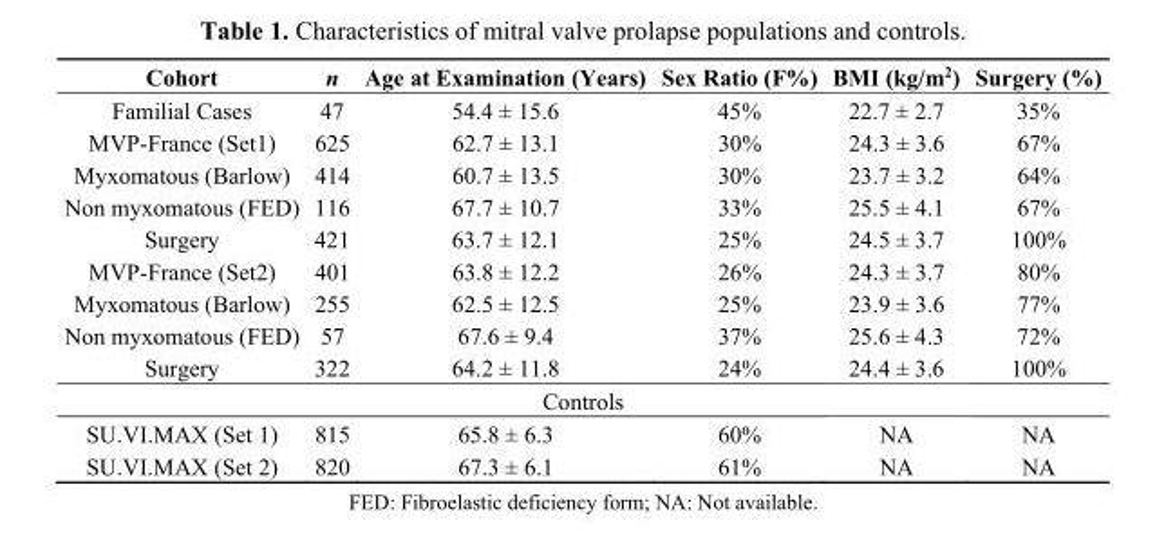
<table><thead><tr><td>Cohort</td><td>n</td><td>Age at Examination (Years)</td><td>Sex Ratio (F%)</td><td>BMI (kg/m<sup>2</sup>)</td><td>Surgery (%)</td></tr></thead><tbody><tr><td>Familial Cases</td><td>47</td><td>54.4 ± 15.6</td><td>45%</td><td>22.7 ± 2.7</td><td>35%</td></tr><tr><td>MVP-France (Set1)</td><td>625</td><td>62.7 ± 13.1</td><td>30%</td><td>24.3 ± 3.6</td><td>67%</td></tr><tr><td>Myxomatous (Barlow)</td><td>414</td><td>60.7 ± 13.5</td><td>30%</td><td>23.7 ± 3.2</td><td>64%</td></tr><tr><td>Non myxomatous (FED)</td><td>116</td><td>67.7 ± 10.7</td><td>33%</td><td>25.5 ± 4.1</td><td>67%</td></tr><tr><td>Surgery</td><td>421</td><td>63.7 ± 12.1</td><td>25%</td><td>24.5 ± 3.7</td><td>100%</td></tr><tr><td>MVP-France (Set2)</td><td>401</td><td>63.8 ± 12.2</td><td>26%</td><td>24.3 ± 3.7</td><td>80%</td></tr><tr><td>Myxomatous (Barlow)</td><td>255</td><td>62.5 ± 12.5</td><td>25%</td><td>23.9 ± 3.6</td><td>77%</td></tr><tr><td>Non myxomatous (FED)</td><td>57</td><td>67.6 ± 9.4</td><td>37%</td><td>25.6 ± 4.3</td><td>72%</td></tr><tr><td>Surgery</td><td>322</td><td>64.2 ± 11.8</td><td>24%</td><td>24.4 ± 3.6</td><td>100%</td></tr><tr><td colspan="6">Controls</td></tr><tr><td>SU.VI.MAX (Set 1)</td><td>815</td><td>65.8 ± 6.3</td><td>60%</td><td>NA</td><td>NA</td></tr><tr><td>SU.VI.MAX (Set 2)</td><td>820</td><td>67.3 ± 6.1</td><td>61%</td><td>NA</td><td>NA</td></tr></tbody></table>